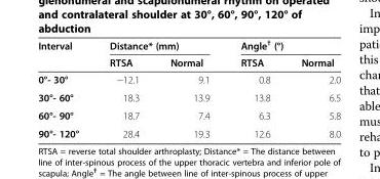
<table><thead><tr><td rowspan="2">Interval</td><td colspan="2">Distance* (mm)</td><td colspan="2">Angle<sup>†</sup> (°)</td></tr><tr><td>RTSA</td><td>Normal</td><td>RTSA</td><td>Normal</td></tr></thead><tbody><tr><td>0°- 30°</td><td>−12.1</td><td>9.1</td><td>0.8</td><td>2.0</td></tr><tr><td>30°- 60°</td><td>18.3</td><td>13.9</td><td>13.8</td><td>6.5</td></tr><tr><td>60°- 90°</td><td>18.7</td><td>7.4</td><td>6.3</td><td>5.8</td></tr><tr><td>90°- 120°</td><td>28.4</td><td>19.3</td><td>12.6</td><td>8.0</td></tr></tbody></table>